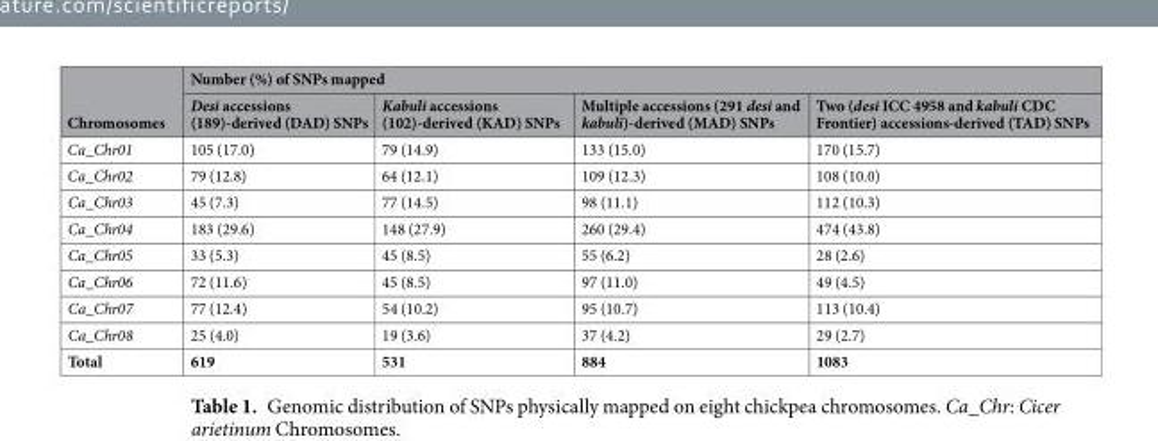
<table><thead><tr><td rowspan="2">Chromosomes</td><td colspan="4">Number (%) of SNPs mapped</td></tr><tr><td>Desi accessions (189)-derived (DAD) SNPs</td><td>Kabuli accessions (102)-derived (KAD) SNPs</td><td>Multiple accessions (291 desi and kabuli)-derived (MAD) SNPs</td><td>Two (desi ICC 4958 and kabuli CDC Frontier) accessions-derived (TAD) SNPs</td></tr></thead><tbody><tr><td>Ca_Chr01</td><td>105 (17.0)</td><td>79 (14.9)</td><td>133 (15.0)</td><td>170 (15.7)</td></tr><tr><td>Ca_Chr02</td><td>79 (12.8)</td><td>64 (12.1)</td><td>109 (12.3)</td><td>108 (10.0)</td></tr><tr><td>Ca_Chr03</td><td>45 (7.3)</td><td>77 (14.5)</td><td>98 (11.1)</td><td>112 (10.3)</td></tr><tr><td>Ca_Chr04</td><td>183 (29.6)</td><td>148 (27.9)</td><td>260 (29.4)</td><td>474 (43.8)</td></tr><tr><td>Ca_Chr05</td><td>33 (5.3)</td><td>45 (8.5)</td><td>55 (6.2)</td><td>28 (2.6)</td></tr><tr><td>Ca_Chr06</td><td>72 (11.6)</td><td>45 (8.5)</td><td>97 (11.0)</td><td>49 (4.5)</td></tr><tr><td>Ca_Chr07</td><td>77 (12.4)</td><td>54 (10.2)</td><td>95 (10.7)</td><td>113 (10.4)</td></tr><tr><td>Ca_Chr08</td><td>25 (4.0)</td><td>19 (3.6)</td><td>37 (4.2)</td><td>29 (2.7)</td></tr><tr><td>Total</td><td>619</td><td>531</td><td>884</td><td>1083</td></tr></tbody></table>